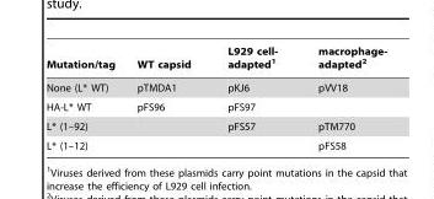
<table><thead><tr><td>Mutation/tag</td><td>WT capsid</td><td>L929 cell- adapted<sup>1</sup></td><td>macrophage- adapted<sup>2</sup></td></tr></thead><tbody><tr><td>None (L* WT)</td><td>pTMDA1</td><td>pKJ6</td><td>pVV18</td></tr><tr><td>HA-L* WT</td><td>pFS96</td><td>pFS97</td><td></td></tr><tr><td>L* (1–92)</td><td></td><td>pFS57</td><td>pTM770</td></tr><tr><td>L* (1–12)</td><td></td><td></td><td>pFS58</td></tr></tbody></table>